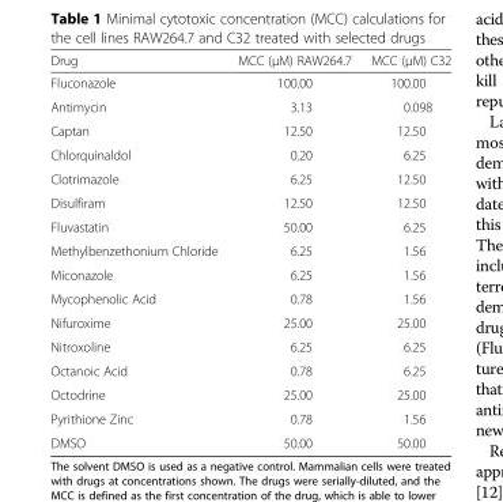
<table><thead><tr><td>Drug</td><td>MCC (μM) RAW264.7</td><td>MCC (μM) C32</td></tr></thead><tbody><tr><td>Fluconazole</td><td>100.00</td><td>100.00</td></tr><tr><td>Antimycin</td><td>3.13</td><td>0.098</td></tr><tr><td>Captan</td><td>12.50</td><td>12.50</td></tr><tr><td>Chlorquinaldol</td><td>0.20</td><td>6.25</td></tr><tr><td>Clotrimazole</td><td>6.25</td><td>12.50</td></tr><tr><td>Disulfiram</td><td>12.50</td><td>12.50</td></tr><tr><td>Fluvastatin</td><td>50.00</td><td>6.25</td></tr><tr><td>Methylbenzethonium Chloride</td><td>6.25</td><td>1.56</td></tr><tr><td>Miconazole</td><td>6.25</td><td>1.56</td></tr><tr><td>Mycophenolic Acid</td><td>0.78</td><td>1.56</td></tr><tr><td>Nifuroxime</td><td>25.00</td><td>25.00</td></tr><tr><td>Nitroxoline</td><td>6.25</td><td>6.25</td></tr><tr><td>Octanoic Acid</td><td>0.78</td><td>6.25</td></tr><tr><td>Octodrine</td><td>25.00</td><td>25.00</td></tr><tr><td>Pyrithione Zinc</td><td>0.78</td><td>1.56</td></tr><tr><td>DMSO</td><td>50.00</td><td>50.00</td></tr></tbody></table>